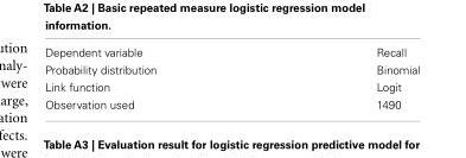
<table><tbody><tr><td>Dependent variable</td><td>Recall</td></tr><tr><td>Probability distribution</td><td>Binomial</td></tr><tr><td>Link function</td><td>Logit</td></tr><tr><td>Observation used</td><td>1490</td></tr></tbody></table>